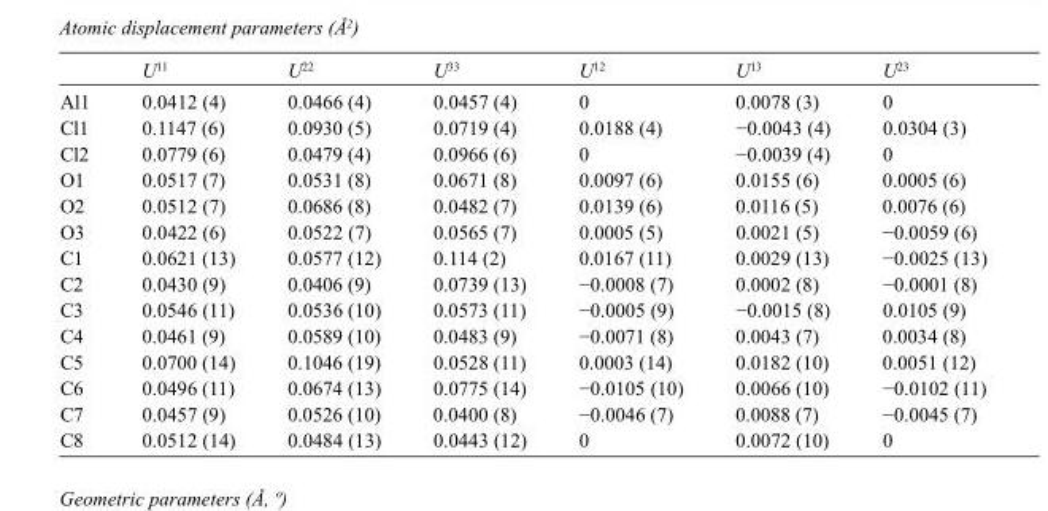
<table><thead><tr><td></td><td>U<sup>11</sup></td><td>U<sup>22</sup></td><td>U<sup>33</sup></td><td>U<sup>12</sup></td><td>U<sup>13</sup></td><td>U<sup>23</sup></td></tr></thead><tbody><tr><td>Al1</td><td>0.0412 (4)</td><td>0.0466 (4)</td><td>0.0457 (4)</td><td>0</td><td>0.0078 (3)</td><td>0</td></tr><tr><td>Cl1</td><td>0.1147 (6)</td><td>0.0930 (5)</td><td>0.0719 (4)</td><td>0.0188 (4)</td><td>−0.0043 (4)</td><td>0.0304 (3)</td></tr><tr><td>Cl2</td><td>0.0779 (6)</td><td>0.0479 (4)</td><td>0.0966 (6)</td><td>0</td><td>−0.0039 (4)</td><td>0</td></tr><tr><td>O1</td><td>0.0517 (7)</td><td>0.0531 (8)</td><td>0.0671 (8)</td><td>0.0097 (6)</td><td>0.0155 (6)</td><td>0.0005 (6)</td></tr><tr><td>O2</td><td>0.0512 (7)</td><td>0.0686 (8)</td><td>0.0482 (7)</td><td>0.0139 (6)</td><td>0.0116 (5)</td><td>0.0076 (6)</td></tr><tr><td>O3</td><td>0.0422 (6)</td><td>0.0522 (7)</td><td>0.0565 (7)</td><td>0.0005 (5)</td><td>0.0021 (5)</td><td>−0.0059 (6)</td></tr><tr><td>C1</td><td>0.0621 (13)</td><td>0.0577 (12)</td><td>0.114 (2)</td><td>0.0167 (11)</td><td>0.0029 (13)</td><td>−0.0025 (13)</td></tr><tr><td>C2</td><td>0.0430 (9)</td><td>0.0406 (9)</td><td>0.0739 (13)</td><td>−0.0008 (7)</td><td>0.0002 (8)</td><td>−0.0001 (8)</td></tr><tr><td>C3</td><td>0.0546 (11)</td><td>0.0536 (10)</td><td>0.0573 (11)</td><td>−0.0005 (9)</td><td>−0.0015 (8)</td><td>0.0105 (9)</td></tr><tr><td>C4</td><td>0.0461 (9)</td><td>0.0589 (10)</td><td>0.0483 (9)</td><td>−0.0071 (8)</td><td>0.0043 (7)</td><td>0.0034 (8)</td></tr><tr><td>C5</td><td>0.0700 (14)</td><td>0.1046 (19)</td><td>0.0528 (11)</td><td>0.0003 (14)</td><td>0.0182 (10)</td><td>0.0051 (12)</td></tr><tr><td>C6</td><td>0.0496 (11)</td><td>0.0674 (13)</td><td>0.0775 (14)</td><td>−0.0105 (10)</td><td>0.0066 (10)</td><td>−0.0102 (11)</td></tr><tr><td>C7</td><td>0.0457 (9)</td><td>0.0526 (10)</td><td>0.0400 (8)</td><td>−0.0046 (7)</td><td>0.0088 (7)</td><td>−0.0045 (7)</td></tr><tr><td>C8</td><td>0.0512 (14)</td><td>0.0484 (13)</td><td>0.0443 (12)</td><td>0</td><td>0.0072 (10)</td><td>0</td></tr></tbody></table>